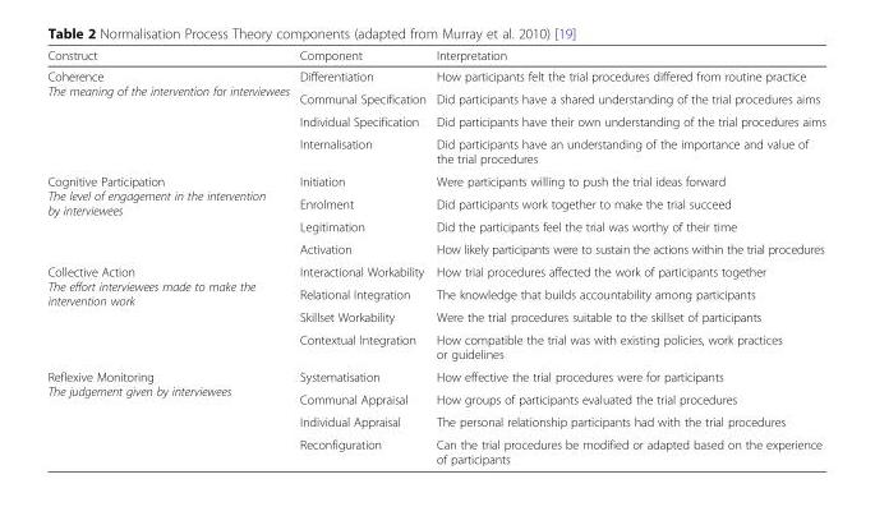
<table><thead><tr><td>Construct</td><td>Component</td><td>Interpretation</td></tr></thead><tbody><tr><td rowspan="4">Coherence The meaning of the intervention for interviewees</td><td>Differentiation</td><td>How participants felt the trial procedures differed from routine practice</td></tr><tr><td>Communal Specification</td><td>Did participants have a shared understanding of the trial procedures aims</td></tr><tr><td>Individual Specification</td><td>Did participants have their own understanding of the trial procedures aims</td></tr><tr><td>Internalisation</td><td>Did participants have an understanding of the importance and value of the trial procedures</td></tr><tr><td rowspan="4">Cognitive Participation The level of engagement in the intervention by interviewees</td><td>Initiation</td><td>Were participants willing to push the trial ideas forward</td></tr><tr><td>Enrolment</td><td>Did participants work together to make the trial succeed</td></tr><tr><td>Legitimation</td><td>Did the participants feel the trial was worthy of their time</td></tr><tr><td>Activation</td><td>How likely participants were to sustain the actions within the trial procedures</td></tr><tr><td rowspan="4">Collective Action The effort interviewees made to make the intervention work</td><td>Interactional Workability</td><td>How trial procedures affected the work of participants together</td></tr><tr><td>Relational Integration</td><td>The knowledge that builds accountability among participants</td></tr><tr><td>Skillset Workability</td><td>Were the trial procedures suitable to the skillset of participants</td></tr><tr><td>Contextual Integration</td><td>How compatible the trial was with existing policies, work practices or guidelines</td></tr><tr><td rowspan="4">Reflexive Monitoring The judgement given by interviewees</td><td>Systematisation</td><td>How effective the trial procedures were for participants</td></tr><tr><td>Communal Appraisal</td><td>How groups of participants evaluated the trial procedures</td></tr><tr><td>Individual Appraisal</td><td>The personal relationship participants had with the trial procedures</td></tr><tr><td>Reconfiguration</td><td>Can the trial procedures be modified or adapted based on the experience of participants</td></tr></tbody></table>